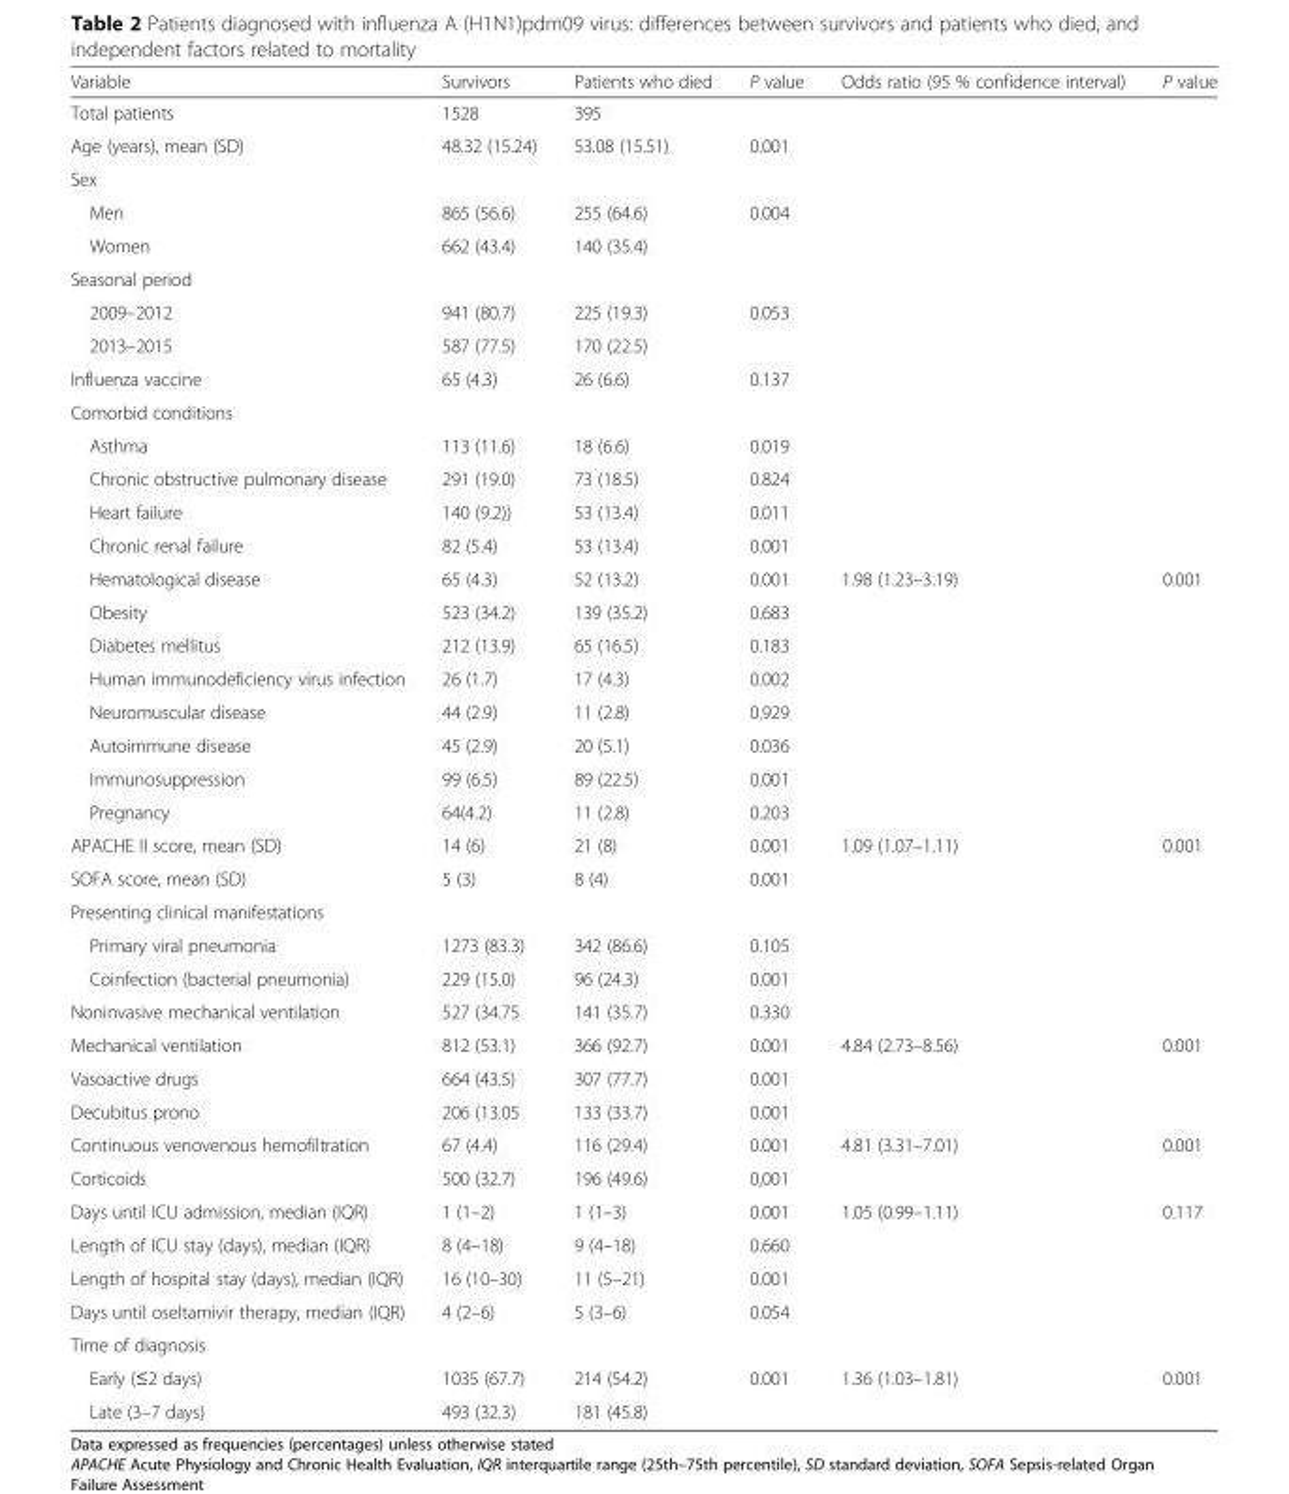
<table><thead><tr><td>Variable</td><td>Survivors</td><td>Patients who died</td><td>P value</td><td>Odds ratio (95 % confidence interval)</td><td>P value</td></tr></thead><tbody><tr><td>Total patients</td><td>1528</td><td>395</td><td></td><td rowspan="2"></td><td rowspan="2"></td></tr><tr><td>Age (years), mean (SD)</td><td>48.32 (15.24)</td><td>53.08 (15.51)</td><td>0.001</td></tr><tr><td colspan="6">Sex</td></tr><tr><td>Men</td><td>865 (56.6)</td><td>255 (64.6)</td><td rowspan="2">0.004</td><td rowspan="2"></td><td rowspan="2"></td></tr><tr><td>Women</td><td>662 (43.4)</td><td>140 (35.4)</td></tr><tr><td colspan="6">Seasonal period</td></tr><tr><td>2009–2012</td><td>941 (80.7)</td><td>225 (19.3)</td><td rowspan="2">0.053</td><td rowspan="2"></td><td rowspan="2"></td></tr><tr><td>2013–2015</td><td>587 (77.5)</td><td>170 (22.5)</td></tr><tr><td>Influenza vaccine</td><td>65 (4.3)</td><td>26 (6.6)</td><td>0.137</td><td></td><td></td></tr><tr><td colspan="6">Comorbid conditions</td></tr><tr><td>Asthma</td><td>113 (11.6)</td><td>18 (6.6)</td><td>0.019</td><td rowspan="4"></td><td rowspan="4"></td></tr><tr><td>Chronic obstructive pulmonary disease</td><td>291 (19.0)</td><td>73 (18.5)</td><td>0.824</td></tr><tr><td>Heart failure</td><td>140 (9.2))</td><td>53 (13.4)</td><td>0.011</td></tr><tr><td>Chronic renal failure</td><td>82 (5.4)</td><td>53 (13.4)</td><td>0.001</td></tr><tr><td>Hematological disease</td><td>65 (4.3)</td><td>52 (13.2)</td><td>0.001</td><td>1.98 (1.23–3.19)</td><td>0.001</td></tr><tr><td>Obesity</td><td>523 (34.2)</td><td>139 (35.2)</td><td>0.683</td><td rowspan="7"></td><td rowspan="7"></td></tr><tr><td>Diabetes mellitus</td><td>212 (13.9)</td><td>65 (16.5)</td><td>0.183</td></tr><tr><td>Human immunodeficiency virus infection</td><td>26 (1.7)</td><td>17 (4.3)</td><td>0.002</td></tr><tr><td>Neuromuscular disease</td><td>44 (2.9)</td><td>11 (2.8)</td><td>0.929</td></tr><tr><td>Autoimmune disease</td><td>45 (2.9)</td><td>20 (5.1)</td><td>0.036</td></tr><tr><td>Immunosuppression</td><td>99 (6.5)</td><td>89 (22.5)</td><td>0.001</td></tr><tr><td>Pregnancy</td><td>64(4.2)</td><td>11 (2.8)</td><td>0.203</td></tr><tr><td>APACHE II score, mean (SD)</td><td>14 (6)</td><td>21 (8)</td><td>0.001</td><td>1.09 (1.07–1.11)</td><td>0.001</td></tr><tr><td>SOFA score, mean (SD)</td><td>5 (3)</td><td>8 (4)</td><td>0.001</td><td></td><td></td></tr><tr><td colspan="6">Presenting clinical manifestations</td></tr><tr><td>Primary viral pneumonia</td><td>1273 (83.3)</td><td>342 (86.6)</td><td>0.105</td><td rowspan="3"></td><td rowspan="3"></td></tr><tr><td>Coinfection (bacterial pneumonia)</td><td>229 (15.0)</td><td>96 (24.3)</td><td>0.001</td></tr><tr><td>Noninvasive mechanical ventilation</td><td>527 (34.75</td><td>141 (35.7)</td><td>0.330</td></tr><tr><td>Mechanical ventilation</td><td>812 (53.1)</td><td>366 (92.7)</td><td>0.001</td><td>4.84 (2.73–8.56)</td><td>0.001</td></tr><tr><td>Vasoactive drugs</td><td>664 (43.5)</td><td>307 (77.7)</td><td>0.001</td><td rowspan="2"></td><td rowspan="2"></td></tr><tr><td>Decubitus prono</td><td>206 (13.05</td><td>133 (33.7)</td><td>0.001</td></tr><tr><td>Continuous venovenous hemofiltration</td><td>67 (4.4)</td><td>116 (29.4)</td><td>0.001</td><td>4.81 (3.31–7.01)</td><td>0.001</td></tr><tr><td>Corticoids</td><td>500 (32.7)</td><td>196 (49.6)</td><td>0,001</td><td></td><td></td></tr><tr><td>Days until ICU admission, median (IQR)</td><td>1 (1–2)</td><td>1 (1–3)</td><td>0.001</td><td>1.05 (0.99–1.11)</td><td>0.117</td></tr><tr><td>Length of ICU stay (days), median (IQR)</td><td>8 (4–18)</td><td>9 (4–18)</td><td>0.660</td><td rowspan="3"></td><td rowspan="3"></td></tr><tr><td>Length of hospital stay (days), median (IQR)</td><td>16 (10–30)</td><td>11 (5–21)</td><td>0.001</td></tr><tr><td>Days until oseltamivir therapy, median (IQR)</td><td>4 (2–6)</td><td>5 (3–6)</td><td>0.054</td></tr><tr><td colspan="6">Time of diagnosis</td></tr><tr><td>Early (≤2 days)</td><td>1035 (67.7)</td><td>214 (54.2)</td><td rowspan="2">0.001</td><td rowspan="2">1.36 (1.03–1.81)</td><td rowspan="2">0.001</td></tr><tr><td>Late (3–7 days)</td><td>493 (32.3)</td><td>181 (45.8)</td></tr></tbody></table>